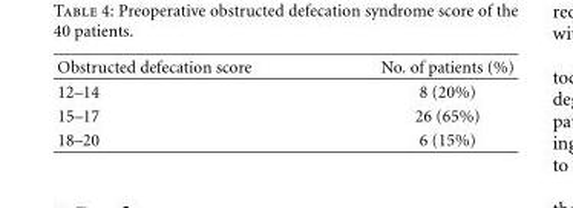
<table><thead><tr><td>Obstructed defecation score</td><td>No. of patients (%)</td></tr></thead><tbody><tr><td>12–14</td><td>8 (20%)</td></tr><tr><td>15–17</td><td>26 (65%)</td></tr><tr><td>18–20</td><td>6 (15%)</td></tr></tbody></table>